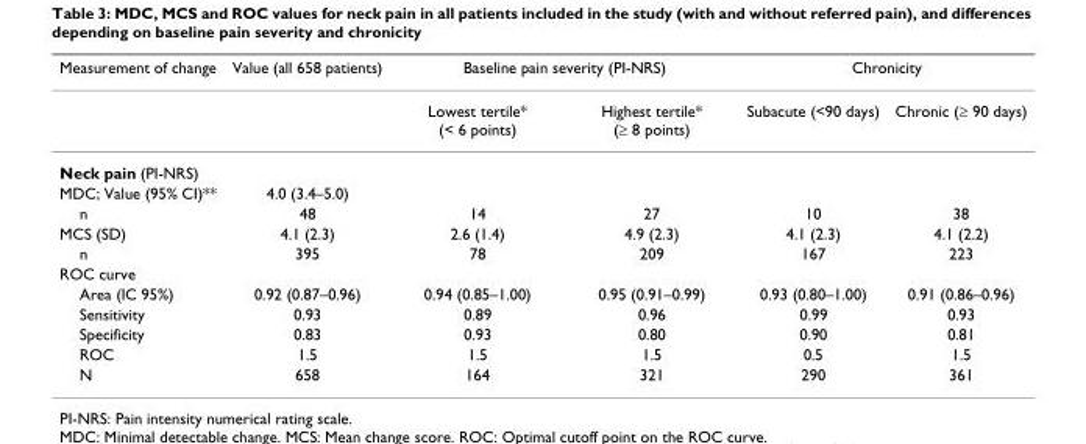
<table><thead><tr><td rowspan="2">Measurement of change</td><td rowspan="2">Value (all 658 patients)</td><td colspan="2">Baseline pain severity (PI-NRS)</td><td colspan="2">Chronicity</td></tr><tr><td>Lowest tertile* (&lt; 6 points)</td><td>Highest tertile* (≥ 8 points)</td><td>Subacute (&lt;90 days)</td><td>Chronic (≥ 90 days)</td></tr></thead><tbody><tr><td colspan="6">Neck pain (PI-NRS)</td></tr><tr><td>MDC; Value (95% CI)**</td><td>4.0 (3.4–5.0)</td><td></td><td></td><td></td><td></td></tr><tr><td>n</td><td>48</td><td>14</td><td>27</td><td>10</td><td>38</td></tr><tr><td>MCS (SD)</td><td>4.1 (2.3)</td><td>2.6 (1.4)</td><td>4.9 (2.3)</td><td>4.1 (2.3)</td><td>4.1 (2.2)</td></tr><tr><td>n</td><td>395</td><td>78</td><td>209</td><td>167</td><td>223</td></tr><tr><td colspan="6">ROC curve</td></tr><tr><td>Area (IC 95%)</td><td>0.92 (0.87–0.96)</td><td>0.94 (0.85–1.00)</td><td>0.95 (0.91–0.99)</td><td>0.93 (0.80–1.00)</td><td>0.91 (0.86–0.96)</td></tr><tr><td>Sensitivity</td><td>0.93</td><td>0.89</td><td>0.96</td><td>0.99</td><td>0.93</td></tr><tr><td>Specificity</td><td>0.83</td><td>0.93</td><td>0.80</td><td>0.90</td><td>0.81</td></tr><tr><td>ROC</td><td>1.5</td><td>1.5</td><td>1.5</td><td>0.5</td><td>1.5</td></tr><tr><td>N</td><td>658</td><td>164</td><td>321</td><td>290</td><td>361</td></tr></tbody></table>